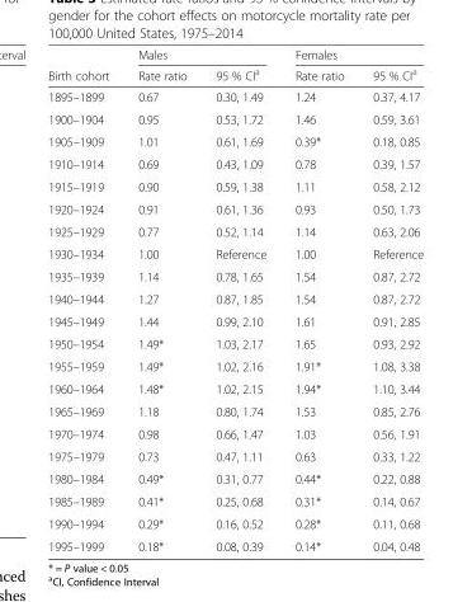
<table><thead><tr><td rowspan="2">Birth cohort</td><td colspan="2">Males</td><td colspan="2">Females</td></tr><tr><td>Rate ratio</td><td>95 % CI<sup>a</sup></td><td>Rate ratio</td><td>95 % CI<sup>a</sup></td></tr></thead><tbody><tr><td>1895–1899</td><td>0.67</td><td>0.30, 1.49</td><td>1.24</td><td>0.37, 4.17</td></tr><tr><td>1900–1904</td><td>0.95</td><td>0.53, 1.72</td><td>1.46</td><td>0.59, 3.61</td></tr><tr><td>1905–1909</td><td>1.01</td><td>0.61, 1.69</td><td>0.39*</td><td>0.18, 0.85</td></tr><tr><td>1910–1914</td><td>0.69</td><td>0.43, 1.09</td><td>0.78</td><td>0.39, 1.57</td></tr><tr><td>1915–1919</td><td>0.90</td><td>0.59, 1.38</td><td>1.11</td><td>0.58, 2.12</td></tr><tr><td>1920–1924</td><td>0.91</td><td>0.61, 1.36</td><td>0.93</td><td>0.50, 1.73</td></tr><tr><td>1925–1929</td><td>0.77</td><td>0.52, 1.14</td><td>1.14</td><td>0.63, 2.06</td></tr><tr><td>1930–1934</td><td>1.00</td><td>Reference</td><td>1.00</td><td>Reference</td></tr><tr><td>1935–1939</td><td>1.14</td><td>0.78, 1.65</td><td>1.54</td><td>0.87, 2.72</td></tr><tr><td>1940–1944</td><td>1.27</td><td>0.87, 1.85</td><td>1.54</td><td>0.87, 2.72</td></tr><tr><td>1945–1949</td><td>1.44</td><td>0.99, 2.10</td><td>1.61</td><td>0.91, 2.85</td></tr><tr><td>1950–1954</td><td>1.49*</td><td>1.03, 2.17</td><td>1.65</td><td>0.93, 2.92</td></tr><tr><td>1955–1959</td><td>1.49*</td><td>1.02, 2.16</td><td>1.91*</td><td>1.08, 3.38</td></tr><tr><td>1960–1964</td><td>1.48*</td><td>1.02, 2.15</td><td>1.94*</td><td>1.10, 3.44</td></tr><tr><td>1965–1969</td><td>1.18</td><td>0.80, 1.74</td><td>1.53</td><td>0.85, 2.76</td></tr><tr><td>1970–1974</td><td>0.98</td><td>0.66, 1.47</td><td>1.03</td><td>0.56, 1.91</td></tr><tr><td>1975–1979</td><td>0.73</td><td>0.47, 1.11</td><td>0.63</td><td>0.33, 1.22</td></tr><tr><td>1980–1984</td><td>0.49*</td><td>0.31, 0.77</td><td>0.44*</td><td>0.22, 0.88</td></tr><tr><td>1985–1989</td><td>0.41*</td><td>0.25, 0.68</td><td>0.31*</td><td>0.14, 0.67</td></tr><tr><td>1990–1994</td><td>0.29*</td><td>0.16, 0.52</td><td>0.28*</td><td>0.11, 0.68</td></tr><tr><td>1995–1999</td><td>0.18*</td><td>0.08, 0.39</td><td>0.14*</td><td>0.04, 0.48</td></tr></tbody></table>